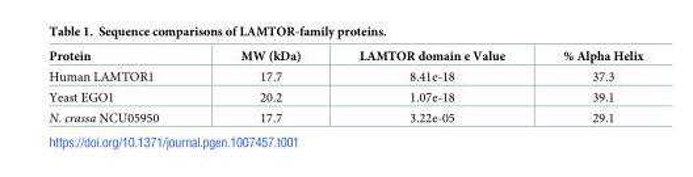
<table><thead><tr><td>Protein</td><td>MW (kDa)</td><td>LAMTOR domain e Value</td><td>% Alpha Helix</td></tr></thead><tbody><tr><td>Human LAMTOR1</td><td>17.7</td><td>8.41e-18</td><td>37.3</td></tr><tr><td>Yeast EGO1</td><td>20.2</td><td>1.07e-18</td><td>39.1</td></tr><tr><td>N. crassa NCU05950</td><td>17.7</td><td>3.22e-05</td><td>29.1</td></tr></tbody></table>